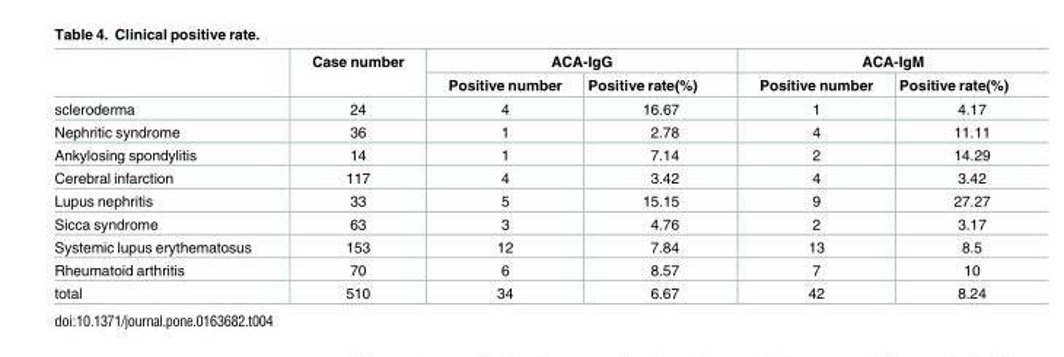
<table><thead><tr><td rowspan="2"></td><td rowspan="2">Case number</td><td colspan="2">ACA-IgG</td><td colspan="2">ACA-IgM</td></tr><tr><td>Positive number</td><td>Positive rate(%)</td><td>Positive number</td><td>Positive rate(%)</td></tr></thead><tbody><tr><td>scleroderma</td><td>24</td><td>4</td><td>16.67</td><td>1</td><td>4.17</td></tr><tr><td>Nephritic syndrome</td><td>36</td><td>1</td><td>2.78</td><td>4</td><td>11.11</td></tr><tr><td>Ankylosing spondylitis</td><td>14</td><td>1</td><td>7.14</td><td>2</td><td>14.29</td></tr><tr><td>Cerebral infarction</td><td>117</td><td>4</td><td>3.42</td><td>4</td><td>3.42</td></tr><tr><td>Lupus nephritis</td><td>33</td><td>5</td><td>15.15</td><td>9</td><td>27.27</td></tr><tr><td>Sicca syndrome</td><td>63</td><td>3</td><td>4.76</td><td>2</td><td>3.17</td></tr><tr><td>Systemic lupus erythematosus</td><td>153</td><td>12</td><td>7.84</td><td>13</td><td>8.5</td></tr><tr><td>Rheumatoid arthritis</td><td>70</td><td>6</td><td>8.57</td><td>7</td><td>10</td></tr><tr><td>total</td><td>510</td><td>34</td><td>6.67</td><td>42</td><td>8.24</td></tr></tbody></table>